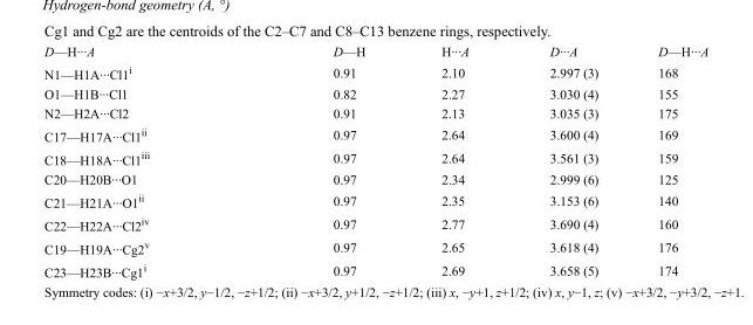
<table><tbody><tr><td>D—H···A</td><td>D—H</td><td>H···A</td><td>D···A</td><td>D—H···A</td></tr><tr><td>N1—H1A···Cl1<sup>i</sup></td><td>0.91</td><td>2.10</td><td>2.997 (3)</td><td>168</td></tr><tr><td>O1—H1B···Cl1</td><td>0.82</td><td>2.27</td><td>3.030 (4)</td><td>155</td></tr><tr><td>N2—H2A···Cl2</td><td>0.91</td><td>2.13</td><td>3.035 (3)</td><td>175</td></tr><tr><td>C17—H17A···Cl1<sup>ii</sup></td><td>0.97</td><td>2.64</td><td>3.600 (4)</td><td>169</td></tr><tr><td>C18—H18A···Cl1<sup>iii</sup></td><td>0.97</td><td>2.64</td><td>3.561 (3)</td><td>159</td></tr><tr><td>C20—H20B···O1</td><td>0.97</td><td>2.34</td><td>2.999 (6)</td><td>125</td></tr><tr><td>C21—H21A···O1<sup>ii</sup></td><td>0.97</td><td>2.35</td><td>3.153 (6)</td><td>140</td></tr><tr><td>C22—H22A···Cl2<sup>iv</sup></td><td>0.97</td><td>2.77</td><td>3.690 (4)</td><td>160</td></tr><tr><td>C19—H19A···Cg2<sup>v</sup></td><td>0.97</td><td>2.65</td><td>3.618 (4)</td><td>176</td></tr><tr><td>C23—H23B···Cg1<sup>i</sup></td><td>0.97</td><td>2.69</td><td>3.658 (5)</td><td>174</td></tr></tbody></table>